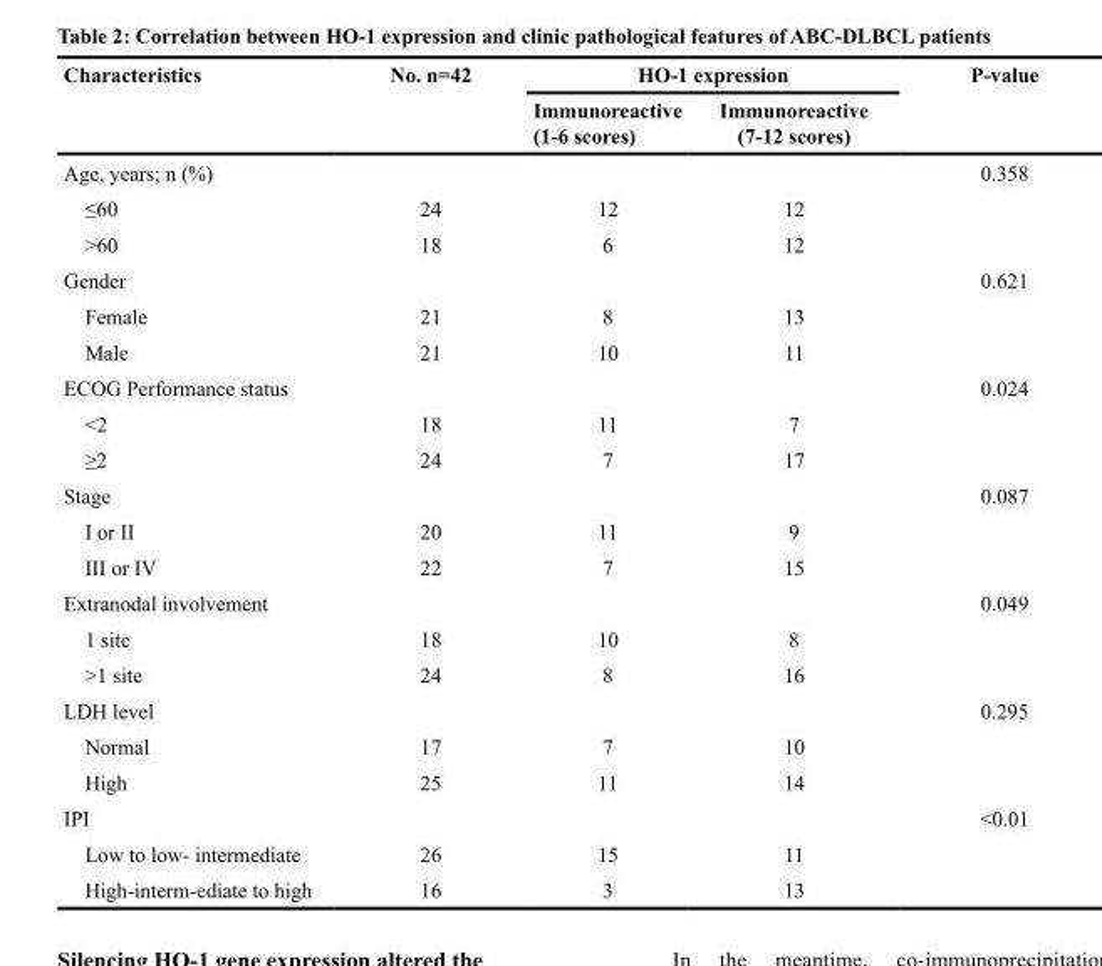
<table><thead><tr><td rowspan="2">Characteristics</td><td rowspan="2">No. n=42</td><td colspan="2">HO-1 expression</td><td rowspan="2">P-value</td></tr><tr><td>Immunoreactive (1-6 scores)</td><td>Immunoreactive (7-12 scores)</td></tr></thead><tbody><tr><td>Age, years; n (%)</td><td></td><td></td><td></td><td>0.358</td></tr><tr><td>≤60</td><td>24</td><td>12</td><td>12</td><td></td></tr><tr><td>&gt;60</td><td>18</td><td>6</td><td>12</td><td></td></tr><tr><td>Gender</td><td></td><td></td><td></td><td>0.621</td></tr><tr><td>Female</td><td>21</td><td>8</td><td>13</td><td></td></tr><tr><td>Male</td><td>21</td><td>10</td><td>11</td><td></td></tr><tr><td>ECOG Performance status</td><td></td><td></td><td></td><td>0.024</td></tr><tr><td>&lt;2</td><td>18</td><td>11</td><td>7</td><td></td></tr><tr><td>≥2</td><td>24</td><td>7</td><td>17</td><td></td></tr><tr><td>Stage</td><td></td><td></td><td></td><td>0.087</td></tr><tr><td>I or II</td><td>20</td><td>11</td><td>9</td><td></td></tr><tr><td>III or IV</td><td>22</td><td>7</td><td>15</td><td></td></tr><tr><td>Extranodal involvement</td><td></td><td></td><td></td><td>0.049</td></tr><tr><td>1 site</td><td>18</td><td>10</td><td>8</td><td></td></tr><tr><td>&gt;1 site</td><td>24</td><td>8</td><td>16</td><td></td></tr><tr><td>LDH level</td><td></td><td></td><td></td><td>0.295</td></tr><tr><td>Normal</td><td>17</td><td>7</td><td>10</td><td></td></tr><tr><td>High</td><td>25</td><td>11</td><td>14</td><td></td></tr><tr><td>IPI</td><td></td><td></td><td></td><td>&lt;0.01</td></tr><tr><td>Low to low- intermediate</td><td>26</td><td>15</td><td>11</td><td></td></tr><tr><td>High-interm-ediate to high</td><td>16</td><td>3</td><td>13</td><td></td></tr></tbody></table>